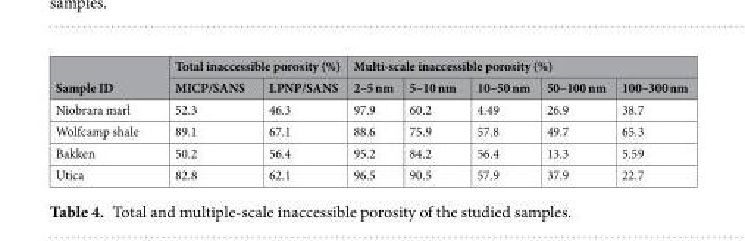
<table><thead><tr><td rowspan="2">Sample ID</td><td colspan="2">Total inaccessible porosity (%)</td><td colspan="5">Multi-scale inaccessible porosity (%)</td></tr><tr><td>MICP/SANS</td><td>LPNP/SANS</td><td>2–5 nm</td><td>5–10 nm</td><td>10–50 nm</td><td>50–100 nm</td><td>100–300 nm</td></tr></thead><tbody><tr><td>Niobrara marl</td><td>52.3</td><td>46.3</td><td>97.9</td><td>60.2</td><td>4.49</td><td>26.9</td><td>38.7</td></tr><tr><td>Wolfcamp shale</td><td>89.1</td><td>67.1</td><td>88.6</td><td>75.9</td><td>57.8</td><td>49.7</td><td>65.3</td></tr><tr><td>Bakken</td><td>50.2</td><td>56.4</td><td>95.2</td><td>84.2</td><td>56.4</td><td>13.3</td><td>5.59</td></tr><tr><td>Utica</td><td>82.8</td><td>62.1</td><td>96.5</td><td>90.5</td><td>57.9</td><td>37.9</td><td>22.7</td></tr></tbody></table>